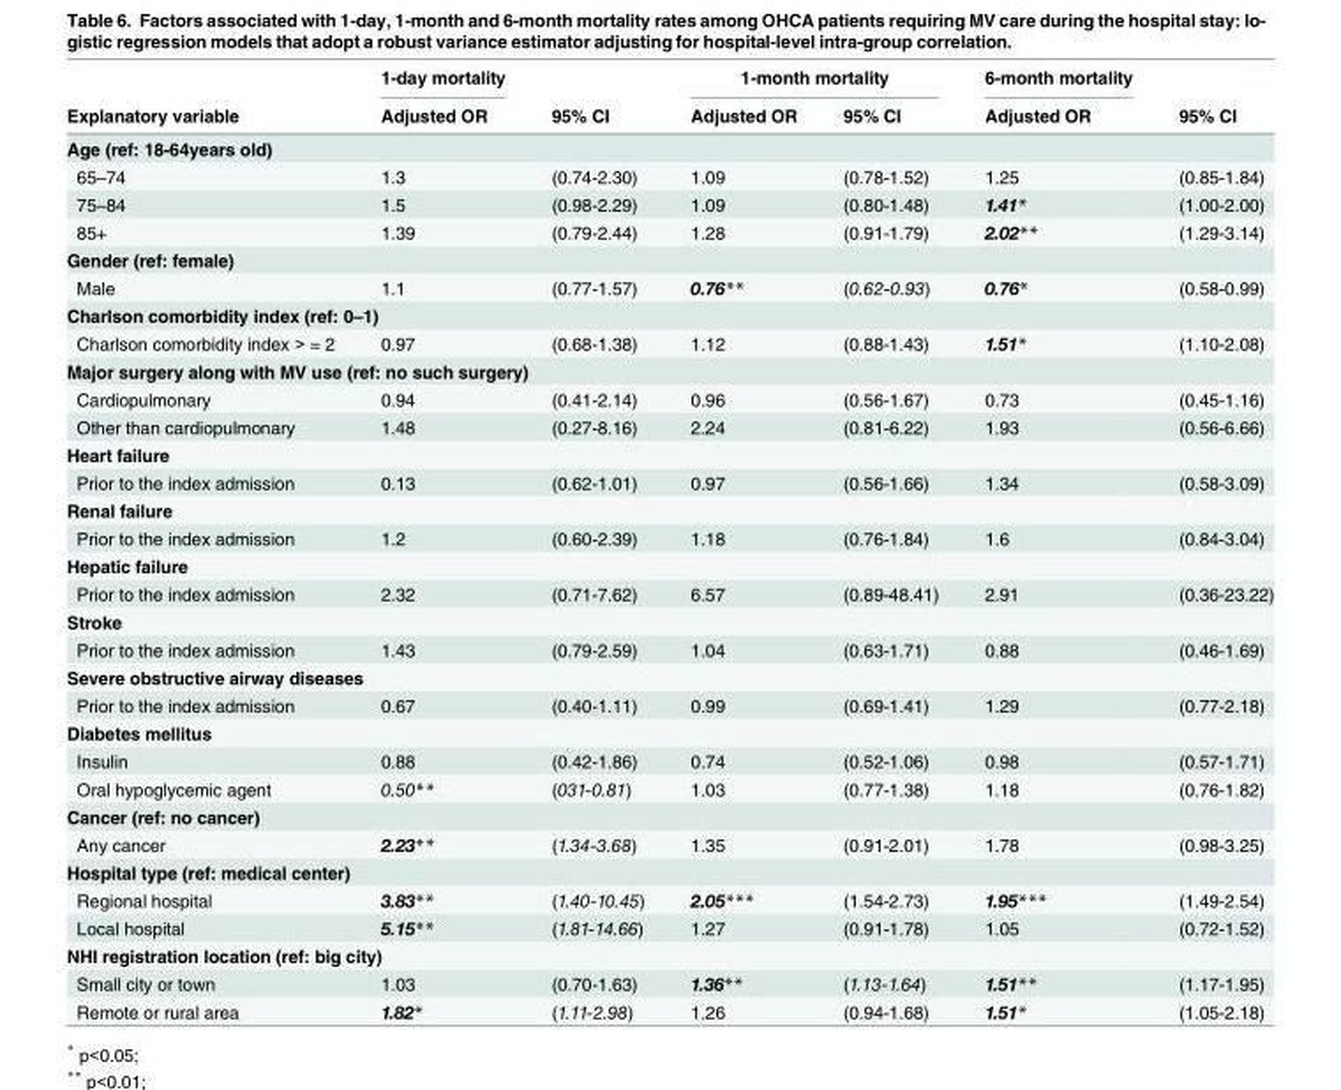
<table><thead><tr><td rowspan="2">Explanatory variable</td><td rowspan="2">1-day mortality Adjusted OR</td><td rowspan="2">95% CI</td><td colspan="2">1-month mortality</td><td rowspan="2">6-month mortality Adjusted OR</td><td rowspan="2">95% CI</td></tr><tr><td>Adjusted OR</td><td>95% CI</td></tr></thead><tbody><tr><td colspan="7">Age (ref: 18-64years old)</td></tr><tr><td>65–74</td><td>1.3</td><td>(0.74-2.30)</td><td>1.09</td><td>(0.78-1.52)</td><td>1.25</td><td>(0.85-1.84)</td></tr><tr><td>75–84</td><td>1.5</td><td>(0.98-2.29)</td><td>1.09</td><td>(0.80-1.48)</td><td>1.41*</td><td>(1.00-2.00)</td></tr><tr><td>85+</td><td>1.39</td><td>(0.79-2.44)</td><td>1.28</td><td>(0.91-1.79)</td><td>2.02**</td><td>(1.29-3.14)</td></tr><tr><td colspan="7">Gender (ref: female)</td></tr><tr><td>Male</td><td>1.1</td><td>(0.77-1.57)</td><td>0.76**</td><td>(0.62-0.93)</td><td>0.76*</td><td>(0.58-0.99)</td></tr><tr><td colspan="7">Charlson comorbidity index (ref: 0–1)</td></tr><tr><td>Charlson comorbidity index &gt; = 2</td><td>0.97</td><td>(0.68-1.38)</td><td>1.12</td><td>(0.88-1.43)</td><td>1.51*</td><td>(1.10-2.08)</td></tr><tr><td colspan="7">Major surgery along with MV use (ref: no such surgery)</td></tr><tr><td>Cardiopulmonary</td><td>0.94</td><td>(0.41-2.14)</td><td>0.96</td><td>(0.56-1.67)</td><td>0.73</td><td>(0.45-1.16)</td></tr><tr><td>Other than cardiopulmonary</td><td>1.48</td><td>(0.27-8.16)</td><td>2.24</td><td>(0.81-6.22)</td><td>1.93</td><td>(0.56-6.66)</td></tr><tr><td colspan="7">Heart failure</td></tr><tr><td>Prior to the index admission</td><td>0.13</td><td>(0.62-1.01)</td><td>0.97</td><td>(0.56-1.66)</td><td>1.34</td><td>(0.58-3.09)</td></tr><tr><td colspan="7">Renal failure</td></tr><tr><td>Prior to the index admission</td><td>1.2</td><td>(0.60-2.39)</td><td>1.18</td><td>(0.76-1.84)</td><td>1.6</td><td>(0.84-3.04)</td></tr><tr><td colspan="7">Hepatic failure</td></tr><tr><td>Prior to the index admission</td><td>2.32</td><td>(0.71-7.62)</td><td>6.57</td><td>(0.89-48.41)</td><td>2.91</td><td>(0.36-23.22)</td></tr><tr><td colspan="7">Stroke</td></tr><tr><td>Prior to the index admission</td><td>1.43</td><td>(0.79-2.59)</td><td>1.04</td><td>(0.63-1.71)</td><td>0.88</td><td>(0.46-1.69)</td></tr><tr><td colspan="7">Severe obstructive airway diseases</td></tr><tr><td>Prior to the index admission</td><td>0.67</td><td>(0.40-1.11)</td><td>0.99</td><td>(0.69-1.41)</td><td>1.29</td><td>(0.77-2.18)</td></tr><tr><td colspan="7">Diabetes mellitus</td></tr><tr><td>Insulin</td><td>0.88</td><td>(0.42-1.86)</td><td>0.74</td><td>(0.52-1.06)</td><td>0.98</td><td>(0.57-1.71)</td></tr><tr><td>Oral hypoglycemic agent</td><td>0.50**</td><td>(031-0.81)</td><td>1.03</td><td>(0.77-1.38)</td><td>1.18</td><td>(0.76-1.82)</td></tr><tr><td colspan="7">Cancer (ref: no cancer)</td></tr><tr><td>Any cancer</td><td>2.23**</td><td>(1.34-3.68)</td><td>1.35</td><td>(0.91-2.01)</td><td>1.78</td><td>(0.98-3.25)</td></tr><tr><td colspan="7">Hospital type (ref: medical center)</td></tr><tr><td>Regional hospital</td><td>3.83**</td><td>(1.40-10.45)</td><td>2.05***</td><td>(1.54-2.73)</td><td>1.95***</td><td>(1.49-2.54)</td></tr><tr><td>Local hospital</td><td>5.15**</td><td>(1.81-14.66)</td><td>1.27</td><td>(0.91-1.78)</td><td>1.05</td><td>(0.72-1.52)</td></tr><tr><td colspan="7">NHI registration location (ref: big city)</td></tr><tr><td>Small city or town</td><td>1.03</td><td>(0.70-1.63)</td><td>1.36**</td><td>(1.13-1.64)</td><td>1.51**</td><td>(1.17-1.95)</td></tr><tr><td>Remote or rural area</td><td>1.82*</td><td>(1.11-2.98)</td><td>1.26</td><td>(0.94-1.68)</td><td>1.51*</td><td>(1.05-2.18)</td></tr></tbody></table>